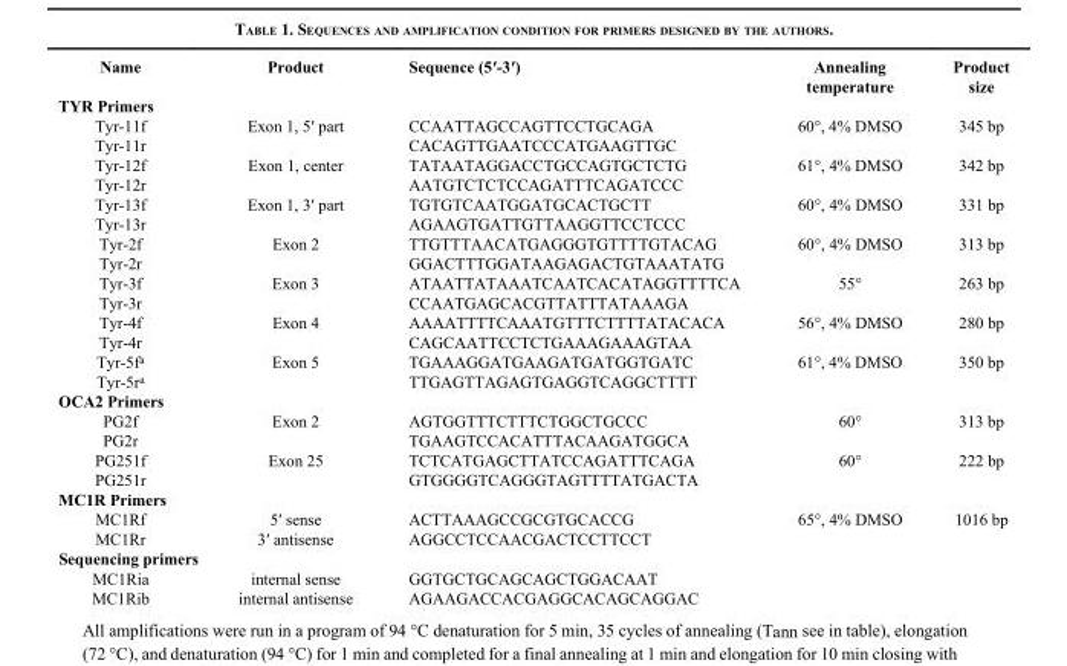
<table><thead><tr><td>Name</td><td>Product</td><td>Sequence (5′-3′)</td><td>Annealing temperature</td><td>Product size</td></tr><tr><td colspan="5">TYR Primers</td></tr></thead><tbody><tr><td>Tyr-11f</td><td>Exon 1, 5′ part</td><td>CCAATTAGCCAGTTCCTGCAGA</td><td>60°, 4% DMSO</td><td>345 bp</td></tr><tr><td>Tyr-11r</td><td></td><td>CACAGTTGAATCCCATGAAGTTGC</td><td></td><td></td></tr><tr><td>Tyr-12f</td><td>Exon 1, center</td><td>TATAATAGGACCTGCCAGTGCTCTG</td><td>61°, 4% DMSO</td><td>342 bp</td></tr><tr><td>Tyr-12r</td><td></td><td>AATGTCTCTCCAGATTTCAGATCCC</td><td></td><td></td></tr><tr><td>Tyr-13f</td><td>Exon 1, 3′ part</td><td>TGTGTCAATGGATGCACTGCTT</td><td>60°, 4% DMSO</td><td>331 bp</td></tr><tr><td>Tyr-13r</td><td></td><td>AGAAGTGATTGTTAAGGTTCCTCCC</td><td></td><td></td></tr><tr><td>Tyr-2f</td><td>Exon 2</td><td>TTGTTTAACATGAGGGTGTTTTGTACAG</td><td>60°, 4% DMSO</td><td>313 bp</td></tr><tr><td>Tyr-2r</td><td></td><td>GGACTTTGGATAAGAGACTGTAAATATG</td><td></td><td></td></tr><tr><td>Tyr-3f</td><td>Exon 3</td><td>ATAATTATAAATCAATCACATAGGTTTTCA</td><td>55°</td><td>263 bp</td></tr><tr><td>Tyr-3r</td><td></td><td>CCAATGAGCACGTTATTTATAAAGA</td><td></td><td></td></tr><tr><td>Tyr-4f</td><td>Exon 4</td><td>AAAATTTTCAAATGTTTCTTTTATACACA</td><td>56°, 4% DMSO</td><td>280 bp</td></tr><tr><td>Tyr-4r</td><td></td><td>CAGCAATTCCTCTGAAAGAAAGTAA</td><td></td><td></td></tr><tr><td>Tyr-5f<sup>a</sup></td><td>Exon 5</td><td>TGAAAGGATGAAGATGATGGTGATC</td><td>61°, 4% DMSO</td><td>350 bp</td></tr><tr><td>Tyr-5r<sup>a</sup></td><td></td><td>TTGAGTTAGAGTGAGGTCAGGCTTTT</td><td></td><td></td></tr><tr><td colspan="5">OCA2 Primers</td></tr><tr><td>PG2f</td><td>Exon 2</td><td>AGTGGTTTCTTTCTGGCTGCCC</td><td>60°</td><td>313 bp</td></tr><tr><td>PG2r</td><td></td><td>TGAAGTCCACATTTACAAGATGGCA</td><td></td><td></td></tr><tr><td>PG251f</td><td>Exon 25</td><td>TCTCATGAGCTTATCCAGATTTCAGA</td><td>60°</td><td>222 bp</td></tr><tr><td>PG251r</td><td></td><td>GTGGGGTCAGGGTAGTTTTATGACTA</td><td></td><td></td></tr><tr><td colspan="5">MC1R Primers</td></tr><tr><td>MC1Rf</td><td>5′ sense</td><td>ACTTAAAGCCGCGTGCACCG</td><td>65°, 4% DMSO</td><td>1016 bp</td></tr><tr><td>MC1Rr</td><td>3′ antisense</td><td>AGGCCTCCAACGACTCCTTCCT</td><td></td><td></td></tr><tr><td colspan="5">Sequencing primers</td></tr><tr><td>MC1Ria</td><td>internal sense</td><td>GGTGCTGCAGCAGCTGGACAAT</td><td></td><td></td></tr><tr><td>MC1Rib</td><td>internal antisense</td><td>AGAAGACCACGAGGCACAGCAGGAC</td><td></td><td></td></tr></tbody></table>